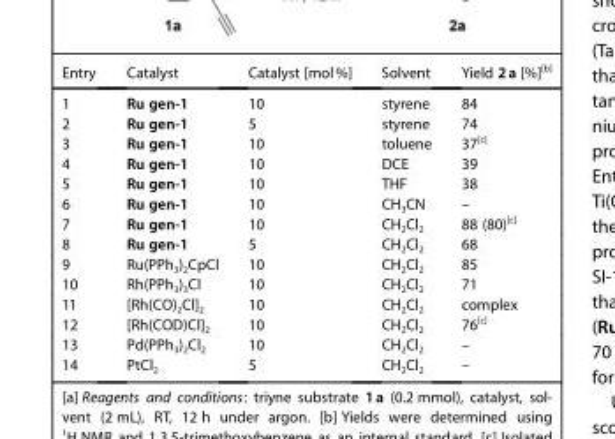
<table><thead><tr><td>Entry</td><td>Catalyst</td><td>Catalyst [mol%]</td><td>Solvent</td><td>Yield 2a [%][b]</td></tr></thead><tbody><tr><td>1</td><td>Ru gen-1</td><td>10</td><td>styrene</td><td>84</td></tr><tr><td>2</td><td>Ru gen-1</td><td>5</td><td>styrene</td><td>74</td></tr><tr><td>3</td><td>Ru gen-1</td><td>10</td><td>toluene</td><td>37[c]</td></tr><tr><td>4</td><td>Ru gen-1</td><td>10</td><td>DCE</td><td>39</td></tr><tr><td>5</td><td>Ru gen-1</td><td>10</td><td>THF</td><td>38</td></tr><tr><td>6</td><td>Ru gen-1</td><td>10</td><td>CH<sub>3</sub>CN</td><td>–</td></tr><tr><td>7</td><td>Ru gen-1</td><td>10</td><td>CH<sub>2</sub>Cl<sub>2</sub></td><td>88 (80)[c]</td></tr><tr><td>8</td><td>Ru gen-1</td><td>5</td><td>CH<sub>2</sub>Cl<sub>2</sub></td><td>68</td></tr><tr><td>9</td><td>Ru(PPh<sub>3</sub>)<sub>2</sub>CpCl</td><td>10</td><td>CH<sub>2</sub>Cl<sub>2</sub></td><td>85</td></tr><tr><td>10</td><td>Rh(PPh<sub>3</sub>)<sub>3</sub>Cl</td><td>10</td><td>CH<sub>2</sub>Cl<sub>2</sub></td><td>71</td></tr><tr><td>11</td><td>[Rh(CO)<sub>2</sub>Cl]<sub>2</sub></td><td>10</td><td>CH<sub>2</sub>Cl<sub>2</sub></td><td>complex</td></tr><tr><td>12</td><td>[Rh(COD)Cl]<sub>2</sub></td><td>10</td><td>CH<sub>2</sub>Cl<sub>2</sub></td><td>76[c]</td></tr><tr><td>13</td><td>Pd(PPh<sub>3</sub>)<sub>2</sub>Cl<sub>2</sub></td><td>10</td><td>CH<sub>2</sub>Cl<sub>2</sub></td><td>–</td></tr><tr><td>14</td><td>PtCl<sub>2</sub></td><td>5</td><td>CH<sub>2</sub>Cl<sub>2</sub></td><td>–</td></tr></tbody></table>